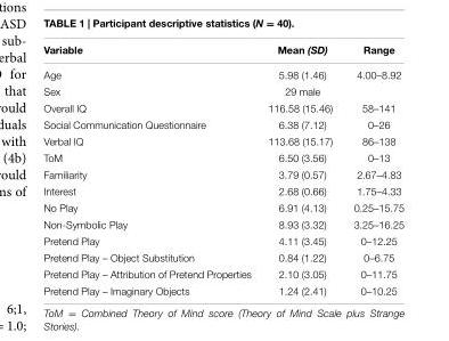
<table><thead><tr><td>Variable</td><td>Mean (SD)</td><td>Range</td></tr></thead><tbody><tr><td>Age</td><td>5.98 (1.46)</td><td>4.00–8.92</td></tr><tr><td>Sex</td><td>29 male</td><td></td></tr><tr><td>Overall IQ</td><td>116.58 (15.46)</td><td>58–141</td></tr><tr><td>Social Communication Questionnaire</td><td>6.38 (7.12)</td><td>0–26</td></tr><tr><td>Verbal IQ</td><td>113.68 (15.17)</td><td>86–138</td></tr><tr><td>ToM</td><td>6.50 (3.56)</td><td>0–13</td></tr><tr><td>Familiarity</td><td>3.79 (0.57)</td><td>2.67–4.83</td></tr><tr><td>Interest</td><td>2.68 (0.66)</td><td>1.75–4.33</td></tr><tr><td>No Play</td><td>6.91 (4.13)</td><td>0.25–15.75</td></tr><tr><td>Non-Symbolic Play</td><td>8.93 (3.32)</td><td>3.25–16.25</td></tr><tr><td>Pretend Play</td><td>4.11 (3.45)</td><td>0–12.25</td></tr><tr><td>Pretend Play – Object Substitution</td><td>0.84 (1.22)</td><td>0–6.75</td></tr><tr><td>Pretend Play – Attribution of Pretend Properties</td><td>2.10 (3.05)</td><td>0–11.75</td></tr><tr><td>Pretend Play – Imaginary Objects</td><td>1.24 (2.41)</td><td>0–10.25</td></tr></tbody></table>